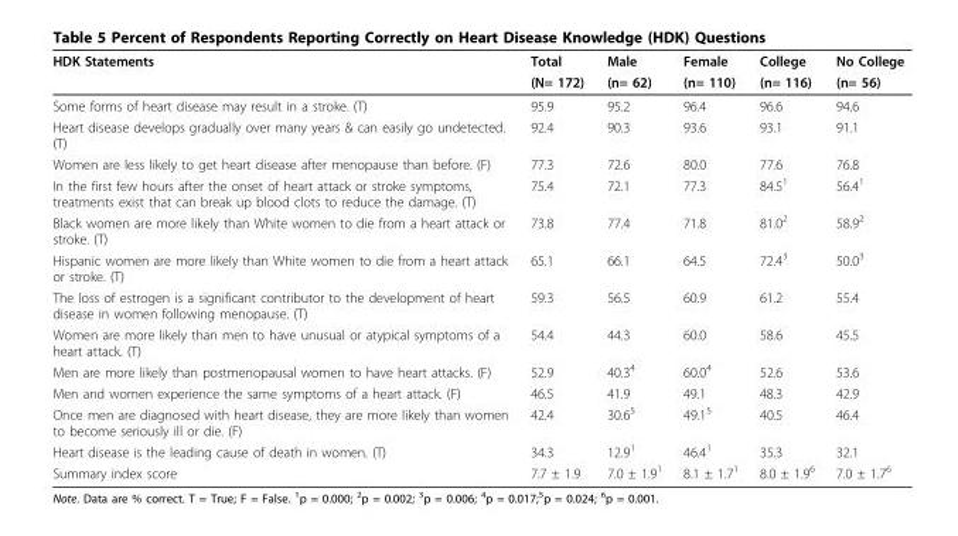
<table><thead><tr><td rowspan="2">HDK Statements</td><td rowspan="2">Total (N= 172)</td><td rowspan="2">Male (n= 62)</td><td rowspan="2">Female (n= 110)</td><td rowspan="2">College (n= 116)</td><td rowspan="2">No College (n= 56)</td></tr><tr></tr></thead><tbody><tr><td>Some forms of heart disease may result in a stroke. (T)</td><td>95.9</td><td>95.2</td><td>96.4</td><td>96.6</td><td>94.6</td></tr><tr><td>Heart disease develops gradually over many years &amp; can easily go undetected. (T)</td><td>92.4</td><td>90.3</td><td>93.6</td><td>93.1</td><td>91.1</td></tr><tr><td>Women are less likely to get heart disease after menopause than before. (F)</td><td>77.3</td><td>72.6</td><td>80.0</td><td>77.6</td><td>76.8</td></tr><tr><td>In the first few hours after the onset of heart attack or stroke symptoms, treatments exist that can break up blood clots to reduce the damage. (T)</td><td>75.4</td><td>72.1</td><td>77.3</td><td>84.5<sup>1</sup></td><td>56.4<sup>1</sup></td></tr><tr><td>Black women are more likely than White women to die from a heart attack or stroke. (T)</td><td>73.8</td><td>77.4</td><td>71.8</td><td>81.0<sup>2</sup></td><td>58.9<sup>2</sup></td></tr><tr><td>Hispanic women are more likely than White women to die from a heart attack or stroke. (T)</td><td>65.1</td><td>66.1</td><td>64.5</td><td>72.4<sup>3</sup></td><td>50.0<sup>3</sup></td></tr><tr><td>The loss of estrogen is a significant contributor to the development of heart disease in women following menopause. (T)</td><td>59.3</td><td>56.5</td><td>60.9</td><td>61.2</td><td>55.4</td></tr><tr><td>Women are more likely than men to have unusual or atypical symptoms of a heart attack. (T)</td><td>54.4</td><td>44.3</td><td>60.0</td><td>58.6</td><td>45.5</td></tr><tr><td>Men are more likely than postmenopausal women to have heart attacks. (F)</td><td>52.9</td><td>40.3<sup>4</sup></td><td>60.0<sup>4</sup></td><td>52.6</td><td>53.6</td></tr><tr><td>Men and women experience the same symptoms of a heart attack. (F)</td><td>46.5</td><td>41.9</td><td>49.1</td><td>48.3</td><td>42.9</td></tr><tr><td>Once men are diagnosed with heart disease, they are more likely than women to become seriously ill or die. (F)</td><td>42.4</td><td>30.6<sup>5</sup></td><td>49.1<sup>5</sup></td><td>40.5</td><td>46.4</td></tr><tr><td>Heart disease is the leading cause of death in women. (T)</td><td>34.3</td><td>12.9<sup>1</sup></td><td>46.4<sup>1</sup></td><td>35.3</td><td>32.1</td></tr><tr><td>Summary index score</td><td>7.7 ± 1.9</td><td>7.0 ± 1.9<sup>1</sup></td><td>8.1 ± 1.7<sup>1</sup></td><td>8.0 ± 1.9<sup>6</sup></td><td>7.0 ± 1.7<sup>6</sup></td></tr></tbody></table>